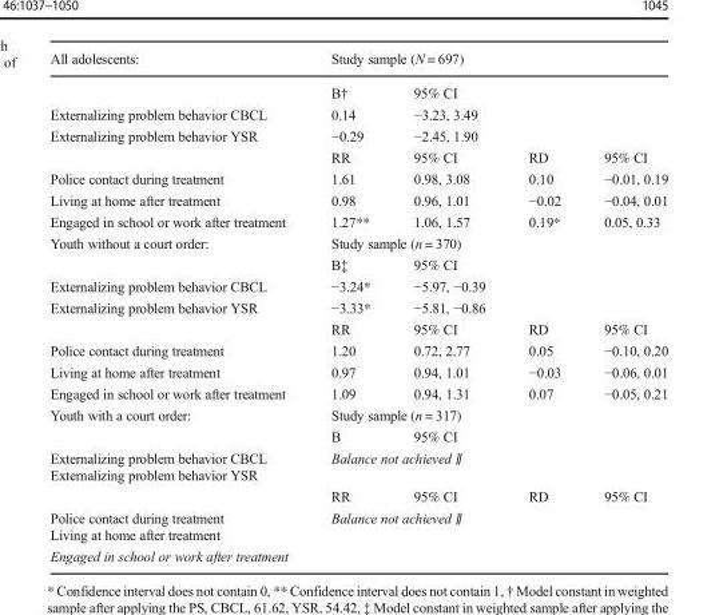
<table><thead><tr><td rowspan="2">All adolescents:</td><td colspan="4">Study sample (N = 697)</td></tr><tr><td>B†</td><td>95% CI</td><td></td><td></td></tr></thead><tbody><tr><td>Externalizing problem behavior CBCL</td><td>0.14</td><td>−3.23, 3.49</td><td></td><td></td></tr><tr><td rowspan="2">Externalizing problem behavior YSR</td><td>−0.29</td><td>−2.45, 1.90</td><td></td><td></td></tr><tr><td>RR</td><td>95% CI</td><td>RD</td><td>95% CI</td></tr><tr><td>Police contact during treatment</td><td>1.61</td><td>0.98, 3.08</td><td>0.10</td><td>−0.01, 0.19</td></tr><tr><td>Living at home after treatment</td><td>0.98</td><td>0.96, 1.01</td><td>−0.02</td><td>−0.04, 0.01</td></tr><tr><td>Engaged in school or work after treatment</td><td>1.27**</td><td>1.06, 1.57</td><td>0.19*</td><td>0.05, 0.33</td></tr><tr><td rowspan="2">Youth without a court order:</td><td colspan="4">Study sample (n = 370)</td></tr><tr><td>B‡</td><td>95% CI</td><td></td><td></td></tr><tr><td>Externalizing problem behavior CBCL</td><td>−3.24*</td><td>−5.97, −0.39</td><td></td><td></td></tr><tr><td rowspan="2">Externalizing problem behavior YSR</td><td>−3.33*</td><td>−5.81, −0.86</td><td></td><td></td></tr><tr><td>RR</td><td>95% CI</td><td>RD</td><td>95% CI</td></tr><tr><td>Police contact during treatment</td><td>1.20</td><td>0.72, 2.77</td><td>0.05</td><td>−0.10, 0.20</td></tr><tr><td>Living at home after treatment</td><td>0.97</td><td>0.94, 1.01</td><td>−0.03</td><td>−0.06, 0.01</td></tr><tr><td>Engaged in school or work after treatment</td><td>1.09</td><td>0.94, 1.31</td><td>0.07</td><td>−0.05, 0.21</td></tr><tr><td rowspan="2">Youth with a court order:</td><td colspan="4">Study sample (n = 317)</td></tr><tr><td>B</td><td>95% CI</td><td></td><td></td></tr><tr><td>Externalizing problem behavior CBCL</td><td rowspan="2" colspan="4">Balance not achieved ‖</td></tr><tr><td rowspan="2">Externalizing problem behavior YSR</td></tr><tr><td>RR</td><td>95% CI</td><td>RD</td><td>95% CI</td></tr><tr><td>Police contact during treatment</td><td rowspan="3" colspan="4">Balance not achieved ‖</td></tr><tr><td>Living at home after treatment</td></tr><tr><td>Engaged in school or work after treatment</td></tr></tbody></table>